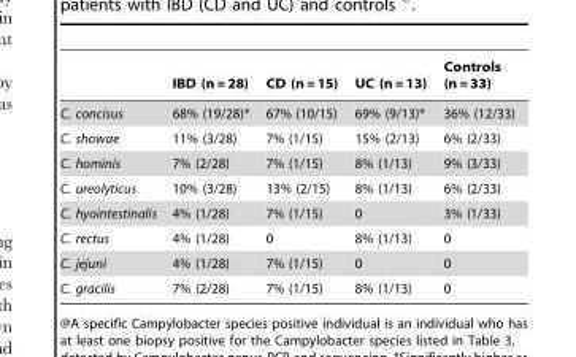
<table><thead><tr><td></td><td>IBD (n = 28)</td><td>CD (n = 15)</td><td>UC (n = 13)</td><td>Controls (n = 33)</td></tr></thead><tbody><tr><td>C. concisus</td><td>68% (19/28)*</td><td>67% (10/15)</td><td>69% (9/13)*</td><td>36% (12/33)</td></tr><tr><td>C. showae</td><td>11% (3/28)</td><td>7% (1/15)</td><td>15% (2/13)</td><td>6% (2/33)</td></tr><tr><td>C. hominis</td><td>7% (2/28)</td><td>7% (1/15)</td><td>8% (1/13)</td><td>9% (3/33)</td></tr><tr><td>C. ureolyticus</td><td>10% (3/28)</td><td>13% (2/15)</td><td>8% (1/13)</td><td>6% (2/33)</td></tr><tr><td>C. hyointestinalis</td><td>4% (1/28)</td><td>7% (1/15)</td><td>0</td><td>3% (1/33)</td></tr><tr><td>C. rectus</td><td>4% (1/28)</td><td>0</td><td>8% (1/13)</td><td>0</td></tr><tr><td>C. jejuni</td><td>4% (1/28)</td><td>7% (1/15)</td><td>0</td><td>0</td></tr><tr><td>C. gracilis</td><td>7% (2/28)</td><td>7% (1/15)</td><td>8% (1/13)</td><td>0</td></tr></tbody></table>